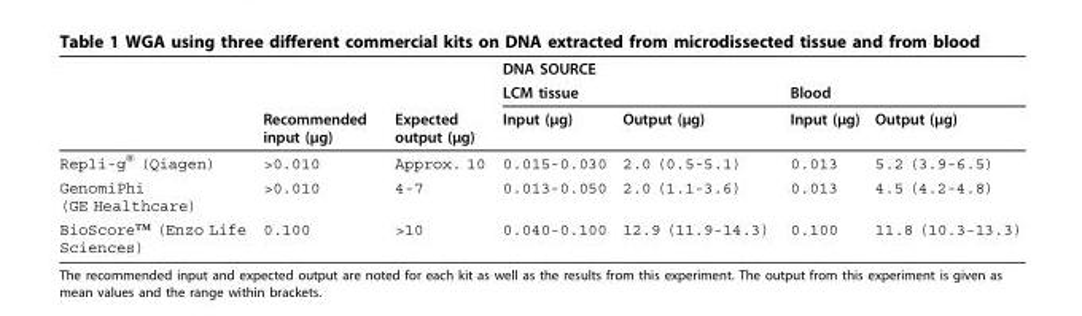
<table><thead><tr><td rowspan="3"></td><td rowspan="3">Recommended input (μg)</td><td rowspan="3">Expected output (μg)</td><td rowspan="3">DNA SOURCE LCM tissue Input (μg)</td><td rowspan="3">Output (μg)</td><td rowspan="3">Blood Input (μg)</td><td rowspan="3">Output (μg)</td></tr><tr></tr><tr></tr></thead><tbody><tr><td>Repli-g<sup>®</sup> (Qiagen)</td><td>&gt;0.010</td><td>Approx. 10</td><td>0.015-0.030</td><td>2.0 (0.5-5.1)</td><td>0.013</td><td>5.2 (3.9-6.5)</td></tr><tr><td>GenomiPhi (GE Healthcare)</td><td>&gt;0.010</td><td>4-7</td><td>0.013-0.050</td><td>2.0 (1.1-3.6)</td><td>0.013</td><td>4.5 (4.2-4.8)</td></tr><tr><td>BioScore™ (Enzo Life Sciences)</td><td>0.100</td><td>&gt;10</td><td>0.040-0.100</td><td>12.9 (11.9-14.3)</td><td>0.100</td><td>11.8 (10.3-13.3)</td></tr></tbody></table>